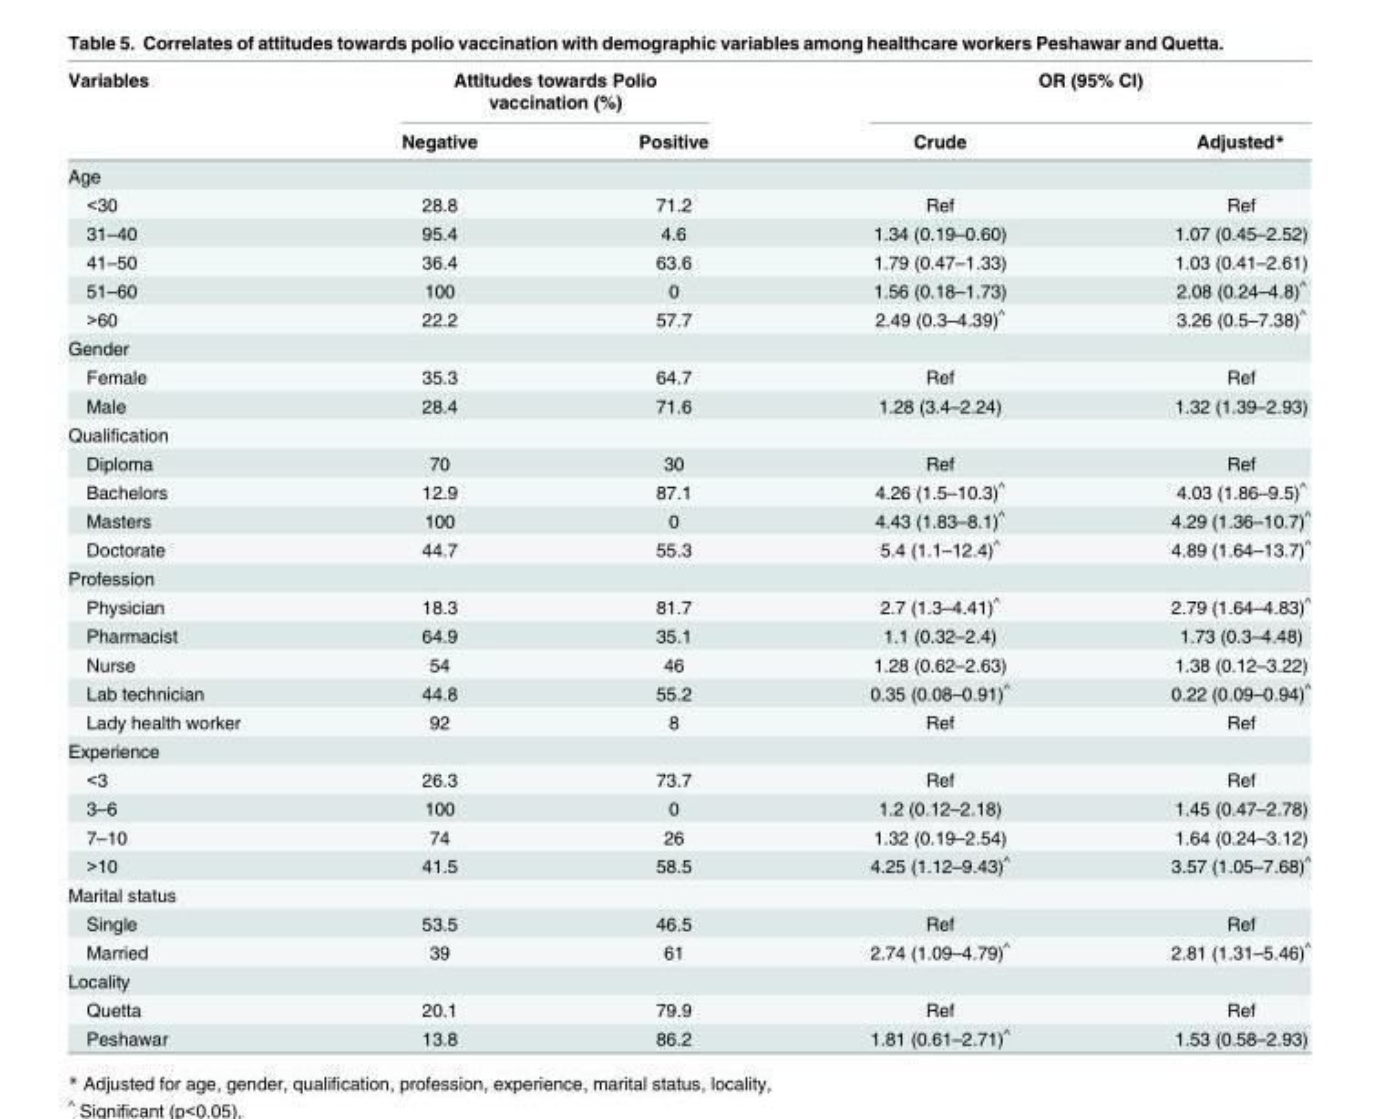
<table><thead><tr><td rowspan="2">Variables</td><td colspan="2">Attitudes towards Polio vaccination (%)</td><td colspan="2">OR (95% CI)</td></tr><tr><td>Negative</td><td>Positive</td><td>Crude</td><td>Adjusted*</td></tr></thead><tbody><tr><td colspan="5">Age</td></tr><tr><td>&lt;30</td><td>28.8</td><td>71.2</td><td>Ref</td><td>Ref</td></tr><tr><td>31–40</td><td>95.4</td><td>4.6</td><td>1.34 (0.19–0.60)</td><td>1.07 (0.45–2.52)</td></tr><tr><td>41–50</td><td>36.4</td><td>63.6</td><td>1.79 (0.47–1.33)</td><td>1.03 (0.41–2.61)</td></tr><tr><td>51–60</td><td>100</td><td>0</td><td>1.56 (0.18–1.73)</td><td>2.08 (0.24–4.8)<sup>^</sup></td></tr><tr><td>&gt;60</td><td>22.2</td><td>57.7</td><td>2.49 (0.3–4.39)<sup>^</sup></td><td>3.26 (0.5–7.38)<sup>^</sup></td></tr><tr><td colspan="5">Gender</td></tr><tr><td>Female</td><td>35.3</td><td>64.7</td><td>Ref</td><td>Ref</td></tr><tr><td>Male</td><td>28.4</td><td>71.6</td><td>1.28 (3.4–2.24)</td><td>1.32 (1.39–2.93)</td></tr><tr><td colspan="5">Qualification</td></tr><tr><td>Diploma</td><td>70</td><td>30</td><td>Ref</td><td>Ref</td></tr><tr><td>Bachelors</td><td>12.9</td><td>87.1</td><td>4.26 (1.5–10.3)<sup>^</sup></td><td>4.03 (1.86–9.5)<sup>^</sup></td></tr><tr><td>Masters</td><td>100</td><td>0</td><td>4.43 (1.83–8.1)<sup>^</sup></td><td>4.29 (1.36–10.7)<sup>^</sup></td></tr><tr><td>Doctorate</td><td>44.7</td><td>55.3</td><td>5.4 (1.1–12.4)<sup>^</sup></td><td>4.89 (1.64–13.7)<sup>^</sup></td></tr><tr><td colspan="5">Profession</td></tr><tr><td>Physician</td><td>18.3</td><td>81.7</td><td>2.7 (1.3–4.41)<sup>^</sup></td><td>2.79 (1.64–4.83)<sup>^</sup></td></tr><tr><td>Pharmacist</td><td>64.9</td><td>35.1</td><td>1.1 (0.32–2.4)</td><td>1.73 (0.3–4.48)</td></tr><tr><td>Nurse</td><td>54</td><td>46</td><td>1.28 (0.62–2.63)</td><td>1.38 (0.12–3.22)</td></tr><tr><td>Lab technician</td><td>44.8</td><td>55.2</td><td>0.35 (0.08–0.91)<sup>^</sup></td><td>0.22 (0.09–0.94)<sup>^</sup></td></tr><tr><td>Lady health worker</td><td>92</td><td>8</td><td>Ref</td><td>Ref</td></tr><tr><td colspan="5">Experience</td></tr><tr><td>&lt;3</td><td>26.3</td><td>73.7</td><td>Ref</td><td>Ref</td></tr><tr><td>3–6</td><td>100</td><td>0</td><td>1.2 (0.12–2.18)</td><td>1.45 (0.47–2.78)</td></tr><tr><td>7–10</td><td>74</td><td>26</td><td>1.32 (0.19–2.54)</td><td>1.64 (0.24–3.12)</td></tr><tr><td>&gt;10</td><td>41.5</td><td>58.5</td><td>4.25 (1.12–9.43)<sup>^</sup></td><td>3.57 (1.05–7.68)<sup>^</sup></td></tr><tr><td colspan="5">Marital status</td></tr><tr><td>Single</td><td>53.5</td><td>46.5</td><td>Ref</td><td>Ref</td></tr><tr><td>Married</td><td>39</td><td>61</td><td>2.74 (1.09–4.79)<sup>^</sup></td><td>2.81 (1.31–5.46)<sup>^</sup></td></tr><tr><td colspan="5">Locality</td></tr><tr><td>Quetta</td><td>20.1</td><td>79.9</td><td>Ref</td><td>Ref</td></tr><tr><td>Peshawar</td><td>13.8</td><td>86.2</td><td>1.81 (0.61–2.71)<sup>^</sup></td><td>1.53 (0.58–2.93)</td></tr></tbody></table>